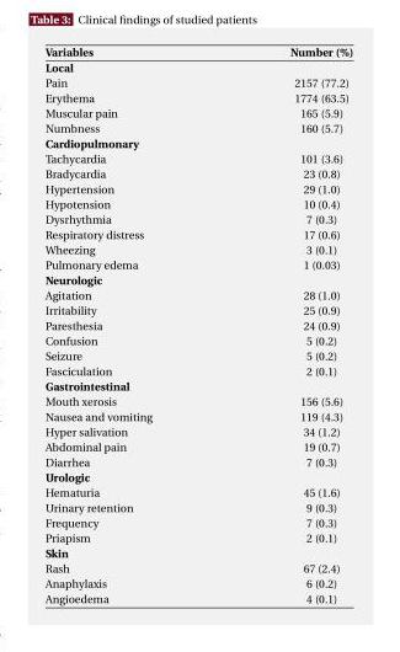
<table><thead><tr><td>Variables</td><td>Number (%)</td></tr></thead><tbody><tr><td colspan="2">Local</td></tr><tr><td>Pain</td><td>2157 (77.2)</td></tr><tr><td>Erythema</td><td>1774 (63.5)</td></tr><tr><td>Muscular pain</td><td>165 (5.9)</td></tr><tr><td>Numbness</td><td>160 (5.7)</td></tr><tr><td colspan="2">Cardiopulmonary</td></tr><tr><td>Tachycardia</td><td>101 (3.6)</td></tr><tr><td>Bradycardia</td><td>23 (0.8)</td></tr><tr><td>Hypertension</td><td>29 (1.0)</td></tr><tr><td>Hypotension</td><td>10 (0.4)</td></tr><tr><td>Dysrhythmia</td><td>7 (0.3)</td></tr><tr><td>Respiratory distress</td><td>17 (0.6)</td></tr><tr><td>Wheezing</td><td>3 (0.1)</td></tr><tr><td>Pulmonary edema</td><td>1 (0.03)</td></tr><tr><td colspan="2">Neurologic</td></tr><tr><td>Agitation</td><td>28 (1.0)</td></tr><tr><td>Irritability</td><td>25 (0.9)</td></tr><tr><td>Paresthesia</td><td>24 (0.9)</td></tr><tr><td>Confusion</td><td>5 (0.2)</td></tr><tr><td>Seizure</td><td>5 (0.2)</td></tr><tr><td>Fasciculation</td><td>2 (0.1)</td></tr><tr><td colspan="2">Gastrointestinal</td></tr><tr><td>Mouth xerosis</td><td>156 (5.6)</td></tr><tr><td>Nausea and vomiting</td><td>119 (4.3)</td></tr><tr><td>Hyper salivation</td><td>34 (1.2)</td></tr><tr><td>Abdominal pain</td><td>19 (0.7)</td></tr><tr><td>Diarrhea</td><td>7 (0.3)</td></tr><tr><td colspan="2">Urologic</td></tr><tr><td>Hematuria</td><td>45 (1.6)</td></tr><tr><td>Urinary retention</td><td>9 (0.3)</td></tr><tr><td>Frequency</td><td>7 (0.3)</td></tr><tr><td>Priapism</td><td>2 (0.1)</td></tr><tr><td colspan="2">Skin</td></tr><tr><td>Rash</td><td>67 (2.4)</td></tr><tr><td>Anaphylaxis</td><td>6 (0.2)</td></tr><tr><td>Angioedema</td><td>4 (0.1)</td></tr></tbody></table>